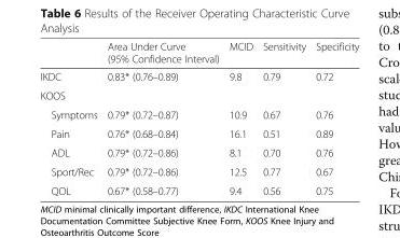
<table><thead><tr><td></td><td>Area Under Curve (95% Confidence Interval)</td><td>MCID</td><td>Sensitivity</td><td>Specificity</td></tr></thead><tbody><tr><td>IKDC</td><td>0.83* (0.76–0.89)</td><td>9.8</td><td>0.79</td><td>0.72</td></tr><tr><td colspan="5">KOOS</td></tr><tr><td>Symptoms</td><td>0.79* (0.72–0.87)</td><td>10.9</td><td>0.67</td><td>0.76</td></tr><tr><td>Pain</td><td>0.76* (0.68–0.84)</td><td>16.1</td><td>0.51</td><td>0.89</td></tr><tr><td>ADL</td><td>0.79* (0.72–0.86)</td><td>8.1</td><td>0.70</td><td>0.76</td></tr><tr><td>Sport/Rec</td><td>0.79* (0.72–0.86)</td><td>12.5</td><td>0.77</td><td>0.67</td></tr><tr><td>QOL</td><td>0.67* (0.58–0.77)</td><td>9.4</td><td>0.56</td><td>0.75</td></tr></tbody></table>